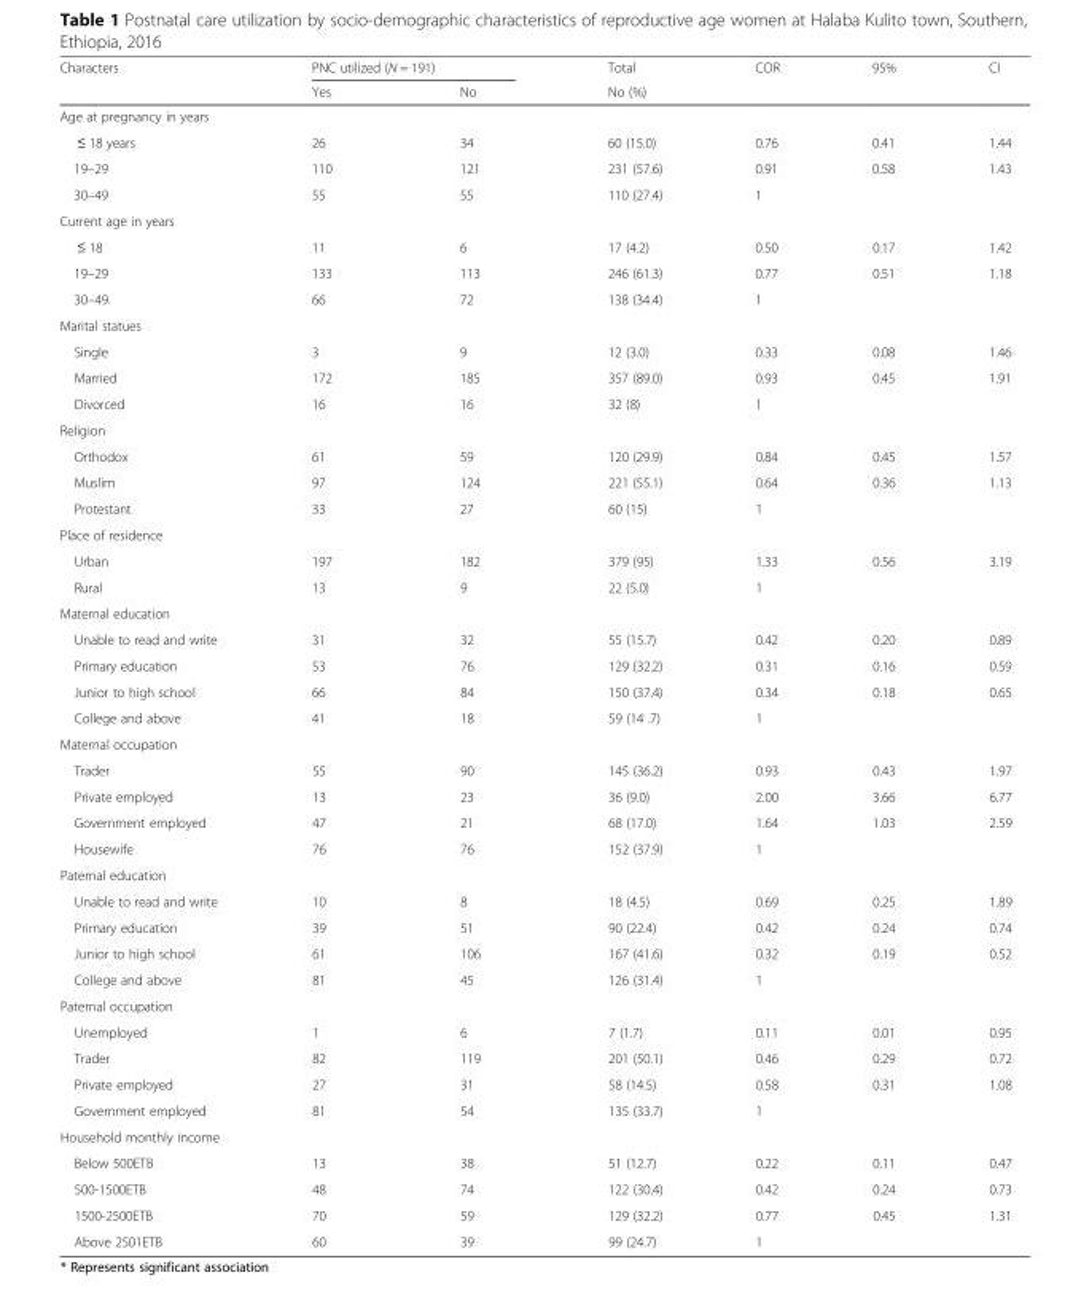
<table><thead><tr><td rowspan="2">Characters</td><td colspan="2">PNC utilized (N = 191)</td><td rowspan="2">Total No (%)</td><td rowspan="2">COR</td><td rowspan="2">95%</td><td rowspan="2">CI</td></tr><tr><td>Yes</td><td>No</td></tr></thead><tbody><tr><td colspan="7">Age at pregnancy in years</td></tr><tr><td>≤ 18 years</td><td>26</td><td>34</td><td>60 (15.0)</td><td>0.76</td><td>0.41</td><td>1.44</td></tr><tr><td>19–29</td><td>110</td><td>121</td><td>231 (57.6)</td><td>0.91</td><td>0.58</td><td>1.43</td></tr><tr><td>30–49</td><td>55</td><td>55</td><td>110 (27.4)</td><td>1</td><td></td><td></td></tr><tr><td colspan="7">Current age in years</td></tr><tr><td>≤ 18</td><td>11</td><td>6</td><td>17 (4.2)</td><td>0.50</td><td>0.17</td><td>1.42</td></tr><tr><td>19–29</td><td>133</td><td>113</td><td>246 (61.3)</td><td>0.77</td><td>0.51</td><td>1.18</td></tr><tr><td>30–49</td><td>66</td><td>72</td><td>138 (34.4)</td><td>1</td><td></td><td></td></tr><tr><td colspan="7">Marital statues</td></tr><tr><td>Single</td><td>3</td><td>9</td><td>12 (3.0)</td><td>0.33</td><td>0.08</td><td>1.46</td></tr><tr><td>Married</td><td>172</td><td>185</td><td>357 (89.0)</td><td>0.93</td><td>0.45</td><td>1.91</td></tr><tr><td>Divorced</td><td>16</td><td>16</td><td>32 (8)</td><td>1</td><td></td><td></td></tr><tr><td colspan="7">Religion</td></tr><tr><td>Orthodox</td><td>61</td><td>59</td><td>120 (29.9)</td><td>0.84</td><td>0.45</td><td>1.57</td></tr><tr><td>Muslim</td><td>97</td><td>124</td><td>221 (55.1)</td><td>0.64</td><td>0.36</td><td>1.13</td></tr><tr><td>Protestant</td><td>33</td><td>27</td><td>60 (15)</td><td>1</td><td></td><td></td></tr><tr><td colspan="7">Place of residence</td></tr><tr><td>Urban</td><td>197</td><td>182</td><td>379 (95)</td><td>1.33</td><td>0.56</td><td>3.19</td></tr><tr><td>Rural</td><td>13</td><td>9</td><td>22 (5.0)</td><td>1</td><td></td><td></td></tr><tr><td colspan="7">Maternal education</td></tr><tr><td>Unable to read and write</td><td>31</td><td>32</td><td>55 (15.7)</td><td>0.42</td><td>0.20</td><td>0.89</td></tr><tr><td>Primary education</td><td>53</td><td>76</td><td>129 (32.2)</td><td>0.31</td><td>0.16</td><td>0.59</td></tr><tr><td>Junior to high school</td><td>66</td><td>84</td><td>150 (37.4)</td><td>0.34</td><td>0.18</td><td>0.65</td></tr><tr><td>College and above</td><td>41</td><td>18</td><td>59 (14 .7)</td><td>1</td><td></td><td></td></tr><tr><td colspan="7">Maternal occupation</td></tr><tr><td>Trader</td><td>55</td><td>90</td><td>145 (36.2)</td><td>0.93</td><td>0.43</td><td>1.97</td></tr><tr><td>Private employed</td><td>13</td><td>23</td><td>36 (9.0)</td><td>2.00</td><td>3.66</td><td>6.77</td></tr><tr><td>Government employed</td><td>47</td><td>21</td><td>68 (17.0)</td><td>1.64</td><td>1.03</td><td>2.59</td></tr><tr><td>Housewife</td><td>76</td><td>76</td><td>152 (37.9)</td><td>1</td><td></td><td></td></tr><tr><td colspan="7">Paternal education</td></tr><tr><td>Unable to read and write</td><td>10</td><td>8</td><td>18 (4.5)</td><td>0.69</td><td>0.25</td><td>1.89</td></tr><tr><td>Primary education</td><td>39</td><td>51</td><td>90 (22.4)</td><td>0.42</td><td>0.24</td><td>0.74</td></tr><tr><td>Junior to high school</td><td>61</td><td>106</td><td>167 (41.6)</td><td>0.32</td><td>0.19</td><td>0.52</td></tr><tr><td>College and above</td><td>81</td><td>45</td><td>126 (31.4)</td><td>1</td><td></td><td></td></tr><tr><td colspan="7">Paternal occupation</td></tr><tr><td>Unemployed</td><td>1</td><td>6</td><td>7 (1.7)</td><td>0.11</td><td>0.01</td><td>0.95</td></tr><tr><td>Trader</td><td>82</td><td>119</td><td>201 (50.1)</td><td>0.46</td><td>0.29</td><td>0.72</td></tr><tr><td>Private employed</td><td>27</td><td>31</td><td>58 (14.5)</td><td>0.58</td><td>0.31</td><td>1.08</td></tr><tr><td>Government employed</td><td>81</td><td>54</td><td>135 (33.7)</td><td>1</td><td></td><td></td></tr><tr><td colspan="7">Household monthly income</td></tr><tr><td>Below 500ETB</td><td>13</td><td>38</td><td>51 (12.7)</td><td>0.22</td><td>0.11</td><td>0.47</td></tr><tr><td>500-1500ETB</td><td>48</td><td>74</td><td>122 (30.4)</td><td>0.42</td><td>0.24</td><td>0.73</td></tr><tr><td>1500-2500ETB</td><td>70</td><td>59</td><td>129 (32.2)</td><td>0.77</td><td>0.45</td><td>1.31</td></tr><tr><td>Above 2501ETB</td><td>60</td><td>39</td><td>99 (24.7)</td><td>1</td><td></td><td></td></tr></tbody></table>